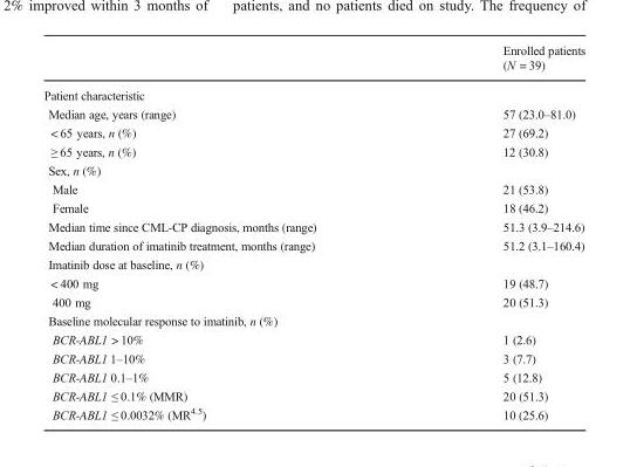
<table><thead><tr><td></td><td>Enrolled patients (N = 39)</td></tr></thead><tbody><tr><td colspan="2">Patient characteristic</td></tr><tr><td>Median age, years (range)</td><td>57 (23.0–81.0)</td></tr><tr><td>&lt; 65 years, n (%)</td><td>27 (69.2)</td></tr><tr><td>≥ 65 years, n (%)</td><td>12 (30.8)</td></tr><tr><td colspan="2">Sex, n (%)</td></tr><tr><td>Male</td><td>21 (53.8)</td></tr><tr><td>Female</td><td>18 (46.2)</td></tr><tr><td>Median time since CML-CP diagnosis, months (range)</td><td>51.3 (3.9–214.6)</td></tr><tr><td>Median duration of imatinib treatment, months (range)</td><td>51.2 (3.1–160.4)</td></tr><tr><td colspan="2">Imatinib dose at baseline, n (%)</td></tr><tr><td>&lt; 400 mg</td><td>19 (48.7)</td></tr><tr><td>400 mg</td><td>20 (51.3)</td></tr><tr><td colspan="2">Baseline molecular response to imatinib, n (%)</td></tr><tr><td>BCR-ABL1 &gt; 10%</td><td>1 (2.6)</td></tr><tr><td>BCR-ABL1 1–10%</td><td>3 (7.7)</td></tr><tr><td>BCR-ABL1 0.1–1%</td><td>5 (12.8)</td></tr><tr><td>BCR-ABL1 ≤ 0.1% (MMR)</td><td>20 (51.3)</td></tr><tr><td>BCR-ABL1 ≤ 0.0032% (MR<sup>4.5</sup>)</td><td>10 (25.6)</td></tr></tbody></table>